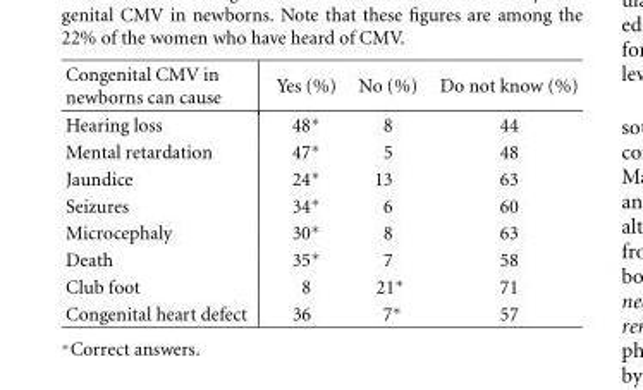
<table><tbody><tr><td>Congenital CMV in newborns can cause</td><td>Yes (%)</td><td>No (%)</td><td>Do not know (%)</td></tr><tr><td>Hearing loss</td><td>48∗</td><td>8</td><td>44</td></tr><tr><td>Mental retardation</td><td>47∗</td><td>5</td><td>48</td></tr><tr><td>Jaundice</td><td>24∗</td><td>13</td><td>63</td></tr><tr><td>Seizures</td><td>34∗</td><td>6</td><td>60</td></tr><tr><td>Microcephaly</td><td>30∗</td><td>8</td><td>63</td></tr><tr><td>Death</td><td>35∗</td><td>7</td><td>58</td></tr><tr><td>Club foot</td><td>8</td><td>21∗</td><td>71</td></tr><tr><td>Congenital heart defect</td><td>36</td><td>7∗</td><td>57</td></tr></tbody></table>